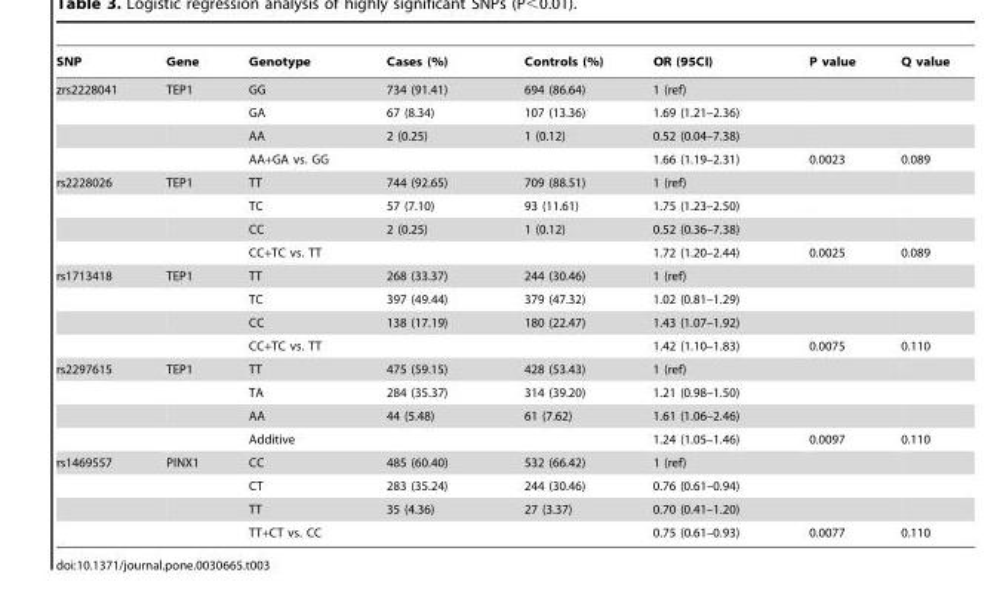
<table><thead><tr><td>SNP</td><td>Gene</td><td>Genotype</td><td>Cases (%)</td><td>Controls (%)</td><td>OR (95CI)</td><td>P value</td><td>Q value</td></tr></thead><tbody><tr><td rowspan="4">zrs2228041</td><td>TEP1</td><td>GG</td><td>734 (91.41)</td><td>694 (86.64)</td><td>1 (ref)</td><td></td><td></td></tr><tr><td></td><td>GA</td><td>67 (8.34)</td><td>107 (13.36)</td><td>1.69 (1.21–2.36)</td><td></td><td></td></tr><tr><td></td><td>AA</td><td>2 (0.25)</td><td>1 (0.12)</td><td>0.52 (0.04–7.38)</td><td></td><td></td></tr><tr><td></td><td>AA+GA vs. GG</td><td></td><td></td><td>1.66 (1.19–2.31)</td><td>0.0023</td><td>0.089</td></tr><tr><td rowspan="4">rs2228026</td><td>TEP1</td><td>TT</td><td>744 (92.65)</td><td>709 (88.51)</td><td>1 (ref)</td><td></td><td></td></tr><tr><td></td><td>TC</td><td>57 (7.10)</td><td>93 (11.61)</td><td>1.75 (1.23–2.50)</td><td></td><td></td></tr><tr><td></td><td>CC</td><td>2 (0.25)</td><td>1 (0.12)</td><td>0.52 (0.36–7.38)</td><td></td><td></td></tr><tr><td></td><td>CC+TC vs. TT</td><td></td><td></td><td>1.72 (1.20–2.44)</td><td>0.0025</td><td>0.089</td></tr><tr><td rowspan="4">rs1713418</td><td>TEP1</td><td>TT</td><td>268 (33.37)</td><td>244 (30.46)</td><td>1 (ref)</td><td></td><td></td></tr><tr><td></td><td>TC</td><td>397 (49.44)</td><td>379 (47.32)</td><td>1.02 (0.81–1.29)</td><td></td><td></td></tr><tr><td></td><td>CC</td><td>138 (17.19)</td><td>180 (22.47)</td><td>1.43 (1.07–1.92)</td><td></td><td></td></tr><tr><td></td><td>CC+TC vs. TT</td><td></td><td></td><td>1.42 (1.10–1.83)</td><td>0.0075</td><td>0.110</td></tr><tr><td rowspan="4">rs2297615</td><td>TEP1</td><td>TT</td><td>475 (59.15)</td><td>428 (53.43)</td><td>1 (ref)</td><td></td><td></td></tr><tr><td></td><td>TA</td><td>284 (35.37)</td><td>314 (39.20)</td><td>1.21 (0.98–1.50)</td><td></td><td></td></tr><tr><td></td><td>AA</td><td>44 (5.48)</td><td>61 (7.62)</td><td>1.61 (1.06–2.46)</td><td></td><td></td></tr><tr><td></td><td>Additive</td><td></td><td></td><td>1.24 (1.05–1.46)</td><td>0.0097</td><td>0.110</td></tr><tr><td rowspan="4">rs1469557</td><td>PINX1</td><td>CC</td><td>485 (60.40)</td><td>532 (66.42)</td><td>1 (ref)</td><td></td><td></td></tr><tr><td></td><td>CT</td><td>283 (35.24)</td><td>244 (30.46)</td><td>0.76 (0.61–0.94)</td><td></td><td></td></tr><tr><td></td><td>TT</td><td>35 (4.36)</td><td>27 (3.37)</td><td>0.70 (0.41–1.20)</td><td></td><td></td></tr><tr><td></td><td>TT+CT vs. CC</td><td></td><td></td><td>0.75 (0.61–0.93)</td><td>0.0077</td><td>0.110</td></tr></tbody></table>